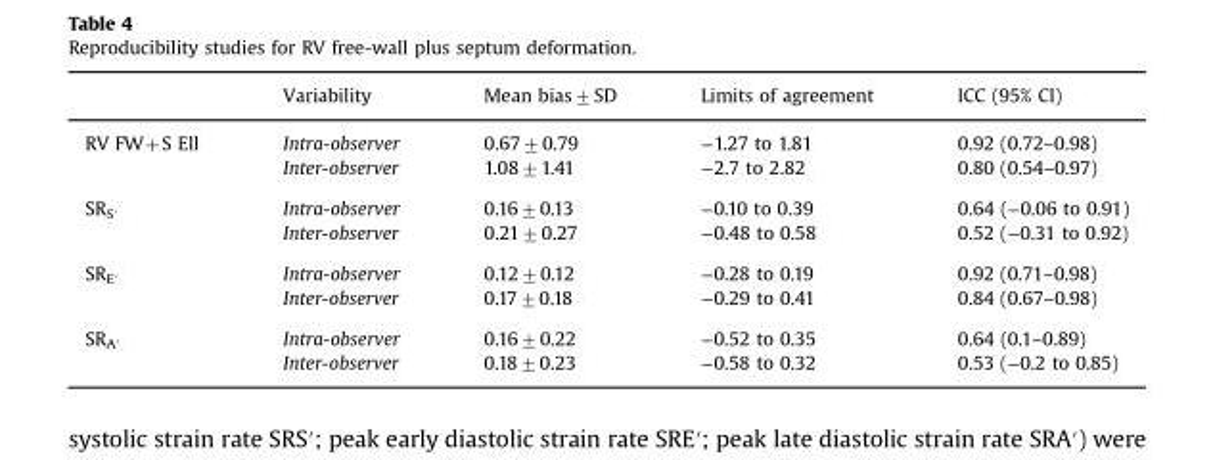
<table><thead><tr><td></td><td>Variability</td><td>Mean bias±SD</td><td>Limits of agreement</td><td>ICC (95% CI)</td></tr></thead><tbody><tr><td rowspan="2">RV FW+S Ell</td><td>Intra-observer</td><td>0.67±0.79</td><td>−1.27 to 1.81</td><td>0.92 (0.72–0.98)</td></tr><tr><td>Inter-observer</td><td>1.08±1.41</td><td>−2.7 to 2.82</td><td>0.80 (0.54–0.97)</td></tr><tr><td rowspan="2">SR<sub>S′</sub></td><td>Intra-observer</td><td>0.16±0.13</td><td>−0.10 to 0.39</td><td>0.64 (−0.06 to 0.91)</td></tr><tr><td>Inter-observer</td><td>0.21±0.27</td><td>−0.48 to 0.58</td><td>0.52 (−0.31 to 0.92)</td></tr><tr><td rowspan="2">SR<sub>E′</sub></td><td>Intra-observer</td><td>0.12±0.12</td><td>−0.28 to 0.19</td><td>0.92 (0.71–0.98)</td></tr><tr><td>Inter-observer</td><td>0.17±0.18</td><td>−0.29 to 0.41</td><td>0.84 (0.67–0.98)</td></tr><tr><td rowspan="2">SR<sub>A′</sub></td><td>Intra-observer</td><td>0.16±0.22</td><td>−0.52 to 0.35</td><td>0.64 (0.1–0.89)</td></tr><tr><td>Inter-observer</td><td>0.18±0.23</td><td>−0.58 to 0.32</td><td>0.53 (−0.2 to 0.85)</td></tr></tbody></table>